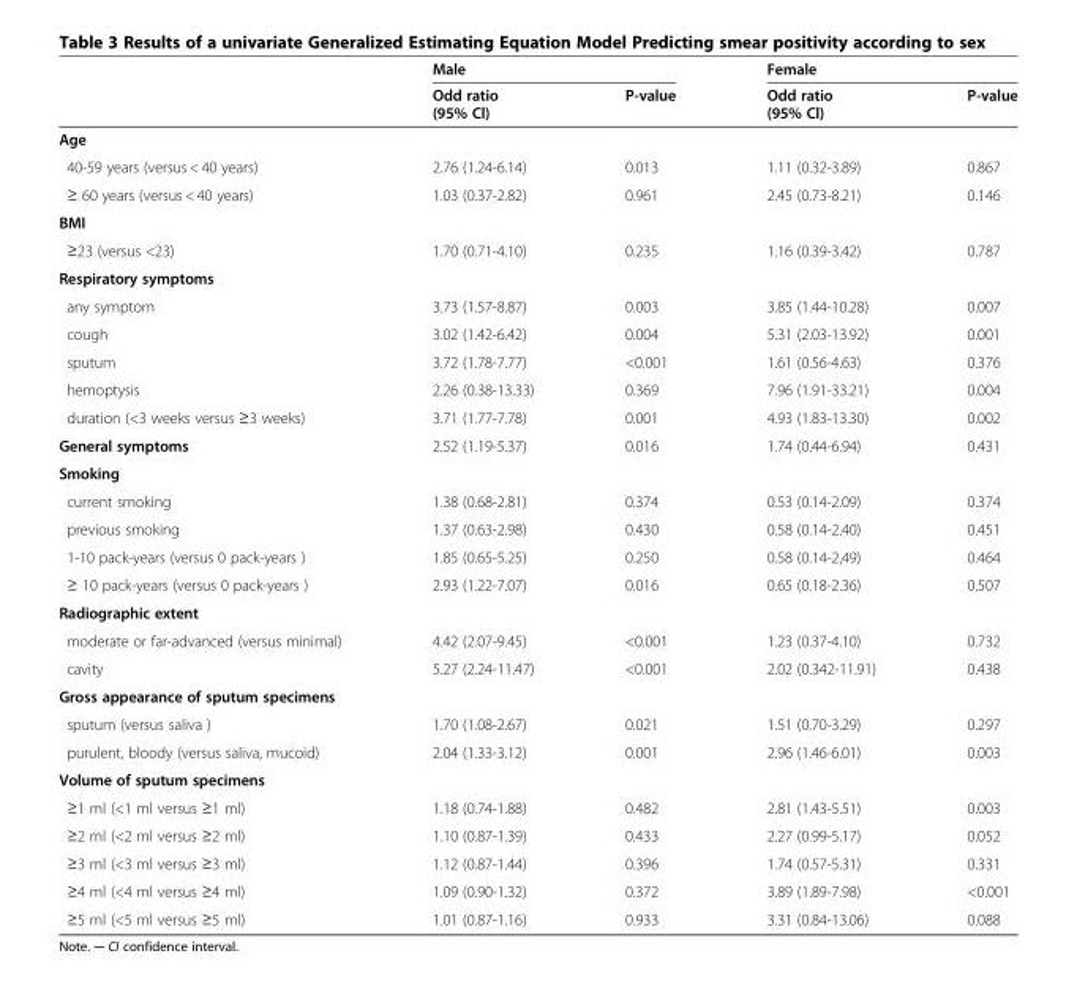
<table><thead><tr><td rowspan="2"></td><td colspan="2">Male</td><td colspan="2">Female</td></tr><tr><td>Odd ratio (95% Cl)</td><td>P-value</td><td>Odd ratio (95% Cl)</td><td>P-value</td></tr></thead><tbody><tr><td colspan="5">Age</td></tr><tr><td>40-59 years (versus &lt; 40 years)</td><td>2.76 (1.24-6.14)</td><td>0.013</td><td>1.11 (0.32-3.89)</td><td>0.867</td></tr><tr><td>≥ 60 years (versus &lt; 40 years)</td><td>1.03 (0.37-2.82)</td><td>0.961</td><td>2.45 (0.73-8.21)</td><td>0.146</td></tr><tr><td colspan="5">BMI</td></tr><tr><td>≥23 (versus &lt;23)</td><td>1.70 (0.71-4.10)</td><td>0.235</td><td>1.16 (0.39-3.42)</td><td>0.787</td></tr><tr><td colspan="5">Respiratory symptoms</td></tr><tr><td>any symptom</td><td>3.73 (1.57-8.87)</td><td>0.003</td><td>3.85 (1.44-10.28)</td><td>0.007</td></tr><tr><td>cough</td><td>3.02 (1.42-6.42)</td><td>0.004</td><td>5.31 (2.03-13.92)</td><td>0.001</td></tr><tr><td>sputum</td><td>3.72 (1.78-7.77)</td><td>&lt;0.001</td><td>1.61 (0.56-4.63)</td><td>0.376</td></tr><tr><td>hemoptysis</td><td>2.26 (0.38-13.33)</td><td>0.369</td><td>7.96 (1.91-33.21)</td><td>0.004</td></tr><tr><td>duration (&lt;3 weeks versus ≥3 weeks)</td><td>3.71 (1.77-7.78)</td><td>0.001</td><td>4.93 (1.83-13.30)</td><td>0.002</td></tr><tr><td>General symptoms</td><td>2.52 (1.19-5.37)</td><td>0.016</td><td>1.74 (0.44-6.94)</td><td>0.431</td></tr><tr><td colspan="5">Smoking</td></tr><tr><td>current smoking</td><td>1.38 (0.68-2.81)</td><td>0.374</td><td>0.53 (0.14-2.09)</td><td>0.374</td></tr><tr><td>previous smoking</td><td>1.37 (0.63-2.98)</td><td>0.430</td><td>0.58 (0.14-2.40)</td><td>0.451</td></tr><tr><td>1-10 pack-years (versus 0 pack-years )</td><td>1.85 (0.65-5.25)</td><td>0.250</td><td>0.58 (0.14-2,49)</td><td>0.464</td></tr><tr><td>≥ 10 pack-years (versus 0 pack-years )</td><td>2.93 (1.22-7.07)</td><td>0.016</td><td>0.65 (0.18-2.36)</td><td>0.507</td></tr><tr><td colspan="5">Radiographic extent</td></tr><tr><td>moderate or far-advanced (versus minimal)</td><td>4.42 (2.07-9.45)</td><td>&lt;0.001</td><td>1.23 (0.37-4.10)</td><td>0.732</td></tr><tr><td>cavity</td><td>5.27 (2.24-11.47)</td><td>&lt;0.001</td><td>2.02 (0.342-11.91)</td><td>0.438</td></tr><tr><td colspan="5">Gross appearance of sputum specimens</td></tr><tr><td>sputum (versus saliva )</td><td>1.70 (1.08-2.67)</td><td>0.021</td><td>1.51 (0.70-3.29)</td><td>0.297</td></tr><tr><td>purulent, bloody (versus saliva, mucoid)</td><td>2.04 (1.33-3.12)</td><td>0.001</td><td>2.96 (1.46-6.01)</td><td>0.003</td></tr><tr><td colspan="5">Volume of sputum specimens</td></tr><tr><td>≥1 ml (&lt;1 ml versus ≥1 ml)</td><td>1.18 (0.74-1.88)</td><td>0.482</td><td>2.81 (1.43-5.51)</td><td>0.003</td></tr><tr><td>≥2 ml (&lt;2 ml versus ≥2 ml)</td><td>1.10 (0.87-1.39)</td><td>0.433</td><td>2.27 (0.99-5.17)</td><td>0.052</td></tr><tr><td>≥3 ml (&lt;3 ml versus ≥3 ml)</td><td>1.12 (0.87-1.44)</td><td>0.396</td><td>1.74 (0.57-5.31)</td><td>0.331</td></tr><tr><td>≥4 ml (&lt;4 ml versus ≥4 ml)</td><td>1.09 (0.90-1.32)</td><td>0.372</td><td>3.89 (1.89-7.98)</td><td>&lt;0.001</td></tr><tr><td>≥5 ml (&lt;5 ml versus ≥5 ml)</td><td>1.01 (0.87-1.16)</td><td>0.933</td><td>3.31 (0.84-13.06)</td><td>0.088</td></tr></tbody></table>